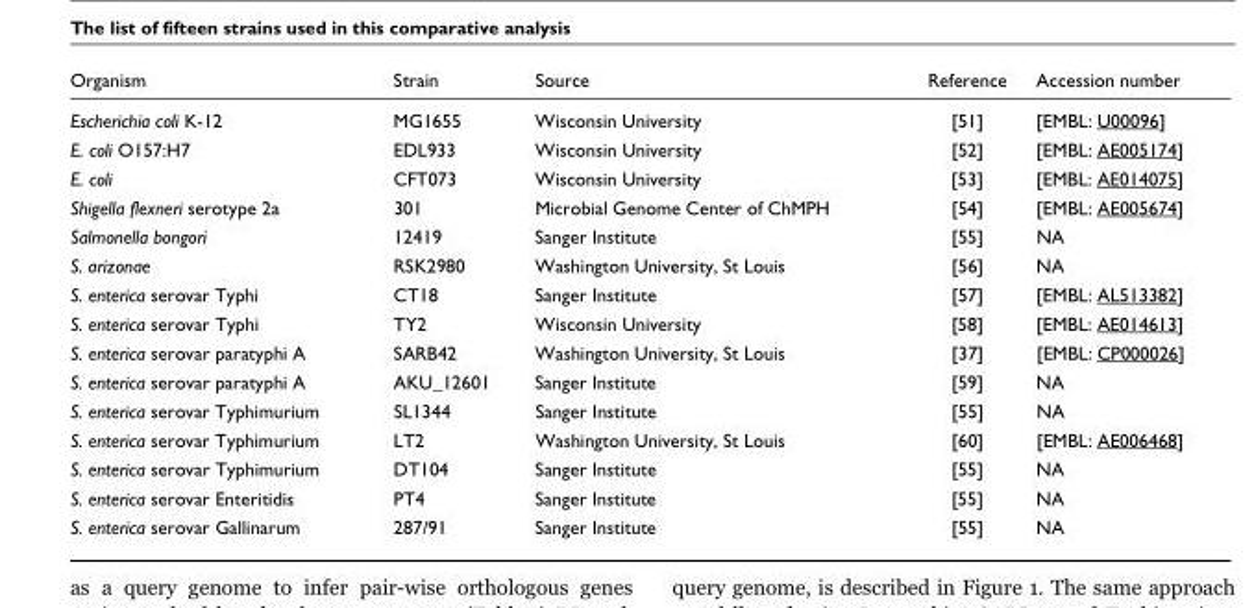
<table><thead><tr><td>Organism</td><td>Strain</td><td>Source</td><td>Reference</td><td>Accession number</td></tr></thead><tbody><tr><td>Escherichia coli K-12</td><td>MG1655</td><td>Wisconsin University</td><td>[51]</td><td>[EMBL: U00096]</td></tr><tr><td>E. coli O157:H7</td><td>EDL933</td><td>Wisconsin University</td><td>[52]</td><td>[EMBL: AE005174]</td></tr><tr><td>E. coli</td><td>CFT073</td><td>Wisconsin University</td><td>[53]</td><td>[EMBL: AE014075]</td></tr><tr><td>Shigella flexneri serotype 2a</td><td>301</td><td>Microbial Genome Center of ChMPH</td><td>[54]</td><td>[EMBL: AE005674]</td></tr><tr><td>Salmonella bongori</td><td>12419</td><td>Sanger Institute</td><td>[55]</td><td>NA</td></tr><tr><td>S. arizonae</td><td>RSK2980</td><td>Washington University, St Louis</td><td>[56]</td><td>NA</td></tr><tr><td>S. enterica serovar Typhi</td><td>CT18</td><td>Sanger Institute</td><td>[57]</td><td>[EMBL: AL513382]</td></tr><tr><td>S. enterica serovar Typhi</td><td>TY2</td><td>Wisconsin University</td><td>[58]</td><td>[EMBL: AE014613]</td></tr><tr><td>S. enterica serovar paratyphi A</td><td>SARB42</td><td>Washington University, St Louis</td><td>[37]</td><td>[EMBL: CP000026]</td></tr><tr><td>S. enterica serovar paratyphi A</td><td>AKU_12601</td><td>Sanger Institute</td><td>[59]</td><td>NA</td></tr><tr><td>S. enterica serovar Typhimurium</td><td>SL1344</td><td>Sanger Institute</td><td>[55]</td><td>NA</td></tr><tr><td>S. enterica serovar Typhimurium</td><td>LT2</td><td>Washington University, St Louis</td><td>[60]</td><td>[EMBL: AE006468]</td></tr><tr><td>S. enterica serovar Typhimurium</td><td>DT104</td><td>Sanger Institute</td><td>[55]</td><td>NA</td></tr><tr><td>S. enterica serovar Enteritidis</td><td>PT4</td><td>Sanger Institute</td><td>[55]</td><td>NA</td></tr><tr><td>S. enterica serovar Gallinarum</td><td>287/91</td><td>Sanger Institute</td><td>[55]</td><td>NA</td></tr></tbody></table>